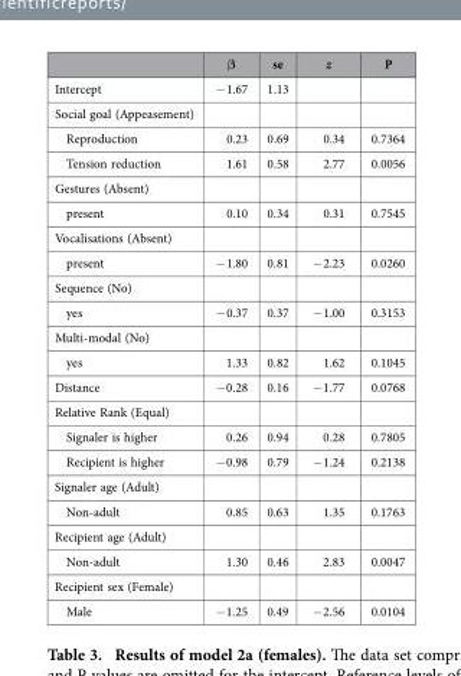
<table><thead><tr><td></td><td>β</td><td>se</td><td>z</td><td>P</td></tr></thead><tbody><tr><td>Intercept</td><td>− 1.67</td><td>1.13</td><td></td><td></td></tr><tr><td colspan="5">Social goal (Appeasement)</td></tr><tr><td>Reproduction</td><td>0.23</td><td>0.69</td><td>0.34</td><td>0.7364</td></tr><tr><td>Tension reduction</td><td>1.61</td><td>0.58</td><td>2.77</td><td>0.0056</td></tr><tr><td colspan="5">Gestures (Absent)</td></tr><tr><td>present</td><td>0.10</td><td>0.34</td><td>0.31</td><td>0.7545</td></tr><tr><td colspan="5">Vocalisations (Absent)</td></tr><tr><td>present</td><td>− 1.80</td><td>0.81</td><td>− 2.23</td><td>0.0260</td></tr><tr><td colspan="5">Sequence (No)</td></tr><tr><td>yes</td><td>− 0.37</td><td>0.37</td><td>− 1.00</td><td>0.3153</td></tr><tr><td colspan="5">Multi-modal (No)</td></tr><tr><td>yes</td><td>1.33</td><td>0.82</td><td>1.62</td><td>0.1045</td></tr><tr><td>Distance</td><td>− 0.28</td><td>0.16</td><td>− 1.77</td><td>0.0768</td></tr><tr><td colspan="5">Relative Rank (Equal)</td></tr><tr><td>Signaler is higher</td><td>0.26</td><td>0.94</td><td>0.28</td><td>0.7805</td></tr><tr><td>Recipient is higher</td><td>− 0.98</td><td>0.79</td><td>− 1.24</td><td>0.2138</td></tr><tr><td colspan="5">Signaler age (Adult)</td></tr><tr><td>Non-adult</td><td>0.85</td><td>0.63</td><td>1.35</td><td>0.1763</td></tr><tr><td colspan="5">Recipient age (Adult)</td></tr><tr><td>Non-adult</td><td>1.30</td><td>0.46</td><td>2.83</td><td>0.0047</td></tr><tr><td colspan="5">Recipient sex (Female)</td></tr><tr><td>Male</td><td>− 1.25</td><td>0.49</td><td>− 2.56</td><td>0.0104</td></tr></tbody></table>